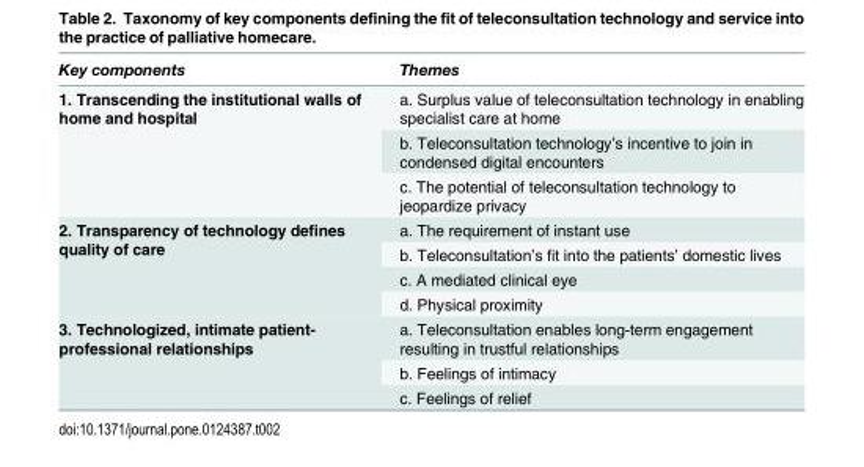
<table><thead><tr><td>Key components</td><td>Themes</td></tr></thead><tbody><tr><td rowspan="3">1. Transcending the institutional walls of home and hospital</td><td>a. Surplus value of teleconsultation technology in enabling specialist care at home</td></tr><tr><td>b. Teleconsultation technology’s incentive to join in condensed digital encounters</td></tr><tr><td>c. The potential of teleconsultation technology to jeopardize privacy</td></tr><tr><td rowspan="4">2. Transparency of technology defines quality of care</td><td>a. The requirement of instant use</td></tr><tr><td>b. Teleconsultation’s fit into the patients’ domestic lives</td></tr><tr><td>c. A mediated clinical eye</td></tr><tr><td>d. Physical proximity</td></tr><tr><td rowspan="3">3. Technologized, intimate patient- professional relationships</td><td>a. Teleconsultation enables long-term engagement resulting in trustful relationships</td></tr><tr><td>b. Feelings of intimacy</td></tr><tr><td>c. Feelings of relief</td></tr></tbody></table>